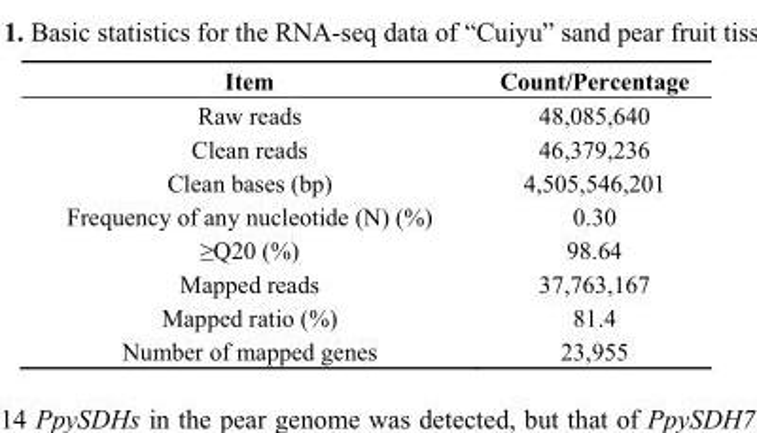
<table><thead><tr><td>Item</td><td>Count/Percentage</td></tr></thead><tbody><tr><td>Raw reads</td><td>48,085,640</td></tr><tr><td>Clean reads</td><td>46,379,236</td></tr><tr><td>Clean bases (bp)</td><td>4,505,546,201</td></tr><tr><td>Frequency of any nucleotide (N) (%)</td><td>0.30</td></tr><tr><td>≥Q20 (%)</td><td>98.64</td></tr><tr><td>Mapped reads</td><td>37,763,167</td></tr><tr><td>Mapped ratio (%)</td><td>81.4</td></tr><tr><td>Number of mapped genes</td><td>23,955</td></tr></tbody></table>